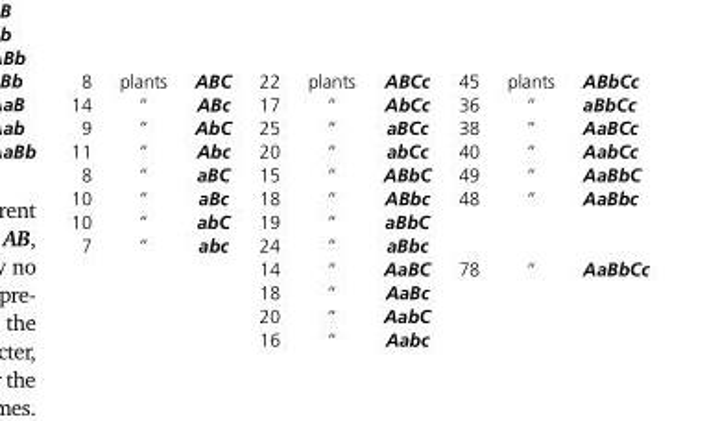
<table><tbody><tr><td>8</td><td>plants</td><td>ABC</td><td>22</td><td>plants</td><td>ABCc</td><td>45</td><td>plants</td><td>ABbCc</td></tr><tr><td>14</td><td>“</td><td>ABc</td><td>17</td><td>“</td><td>AbCc</td><td>36</td><td>“</td><td>aBbCc</td></tr><tr><td>9</td><td>“</td><td>AbC</td><td>25</td><td>“</td><td>aBCc</td><td>38</td><td>“</td><td>AaBCc</td></tr><tr><td>11</td><td>“</td><td>Abc</td><td>20</td><td>“</td><td>abCc</td><td>40</td><td>“</td><td>AabCc</td></tr><tr><td>8</td><td>“</td><td>aBC</td><td>15</td><td>“</td><td>ABbC</td><td>49</td><td>“</td><td>AaBbC</td></tr><tr><td>10</td><td>“</td><td>aBc</td><td>18</td><td>“</td><td>ABbc</td><td>48</td><td>“</td><td>AaBbc</td></tr><tr><td>10</td><td>“</td><td>abC</td><td>19</td><td>“</td><td>aBbC</td><td></td><td></td><td></td></tr><tr><td rowspan="5">7</td><td>“</td><td>abc</td><td>24</td><td>“</td><td>aBbc</td><td></td><td></td><td></td></tr><tr><td></td><td></td><td>14</td><td>“</td><td>AaBC</td><td>78</td><td>“</td><td>AaBbCc</td></tr><tr><td></td><td></td><td>18</td><td>“</td><td>AaBc</td><td></td><td></td><td></td></tr><tr><td></td><td></td><td>20</td><td>“</td><td>AabC</td><td></td><td></td><td></td></tr><tr><td></td><td></td><td>16</td><td>“</td><td>Aabc</td><td></td><td></td><td></td></tr></tbody></table>